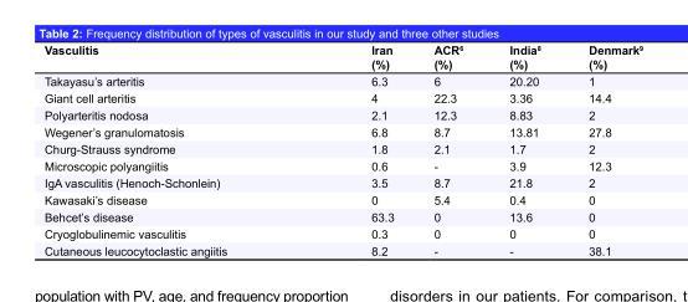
<table><thead><tr><td>Vasculitis</td><td>Iran (%)</td><td>ACR<sup>6</sup> (%)</td><td>India<sup>8</sup> (%)</td><td>Denmark<sup>9</sup> (%)</td></tr></thead><tbody><tr><td>Takayasu’s arteritis</td><td>6.3</td><td>6</td><td>20.20</td><td>1</td></tr><tr><td>Giant cell arteritis</td><td>4</td><td>22.3</td><td>3.36</td><td>14.4</td></tr><tr><td>Polyarteritis nodosa</td><td>2.1</td><td>12.3</td><td>8.83</td><td>2</td></tr><tr><td>Wegener’s granulomatosis</td><td>6.8</td><td>8.7</td><td>13.81</td><td>27.8</td></tr><tr><td>Churg-Strauss syndrome</td><td>1.8</td><td>2.1</td><td>1.7</td><td>2</td></tr><tr><td>Microscopic polyangiitis</td><td>0.6</td><td>-</td><td>3.9</td><td>12.3</td></tr><tr><td>IgA vasculitis (Henoch-Schonlein)</td><td>3.5</td><td>8.7</td><td>21.8</td><td>2</td></tr><tr><td>Kawasaki’s disease</td><td>0</td><td>5.4</td><td>0.4</td><td>0</td></tr><tr><td>Behcet’s disease</td><td>63.3</td><td>0</td><td>13.6</td><td>0</td></tr><tr><td>Cryoglobulinemic vasculitis</td><td>0.3</td><td>0</td><td>0</td><td>0</td></tr><tr><td>Cutaneous leucocytoclastic angiitis</td><td>8.2</td><td>-</td><td>-</td><td>38.1</td></tr></tbody></table>